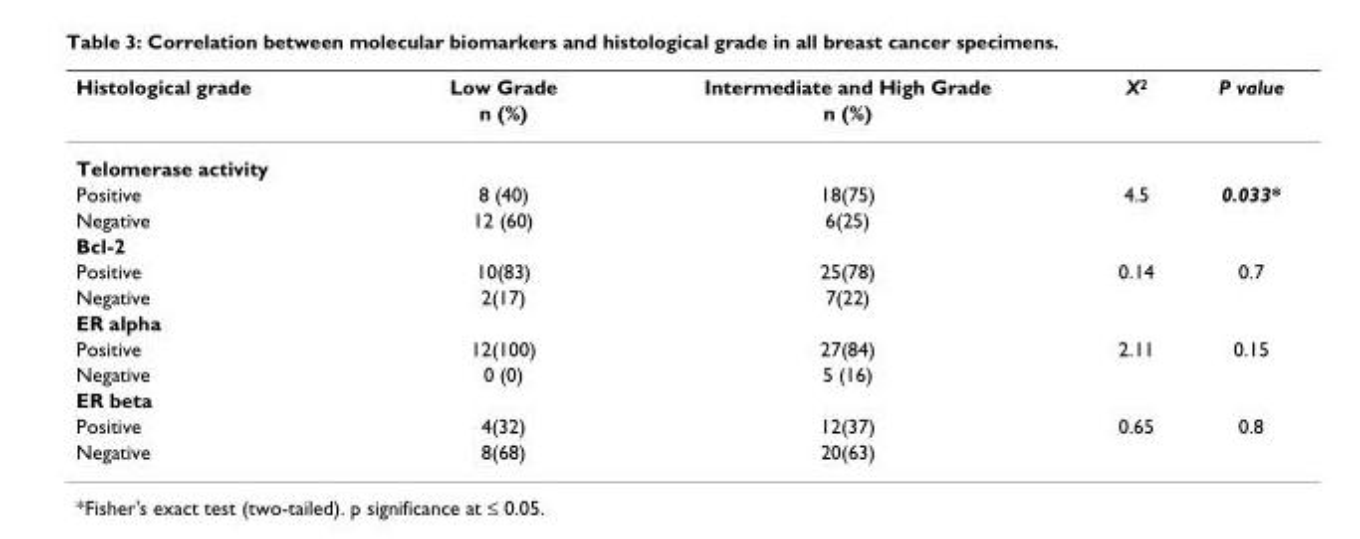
<table><thead><tr><td rowspan="2">Histological grade</td><td rowspan="2">Low Grade n (%)</td><td rowspan="2">Intermediate and High Grade n (%)</td><td rowspan="2">X2</td><td rowspan="2">P value</td></tr><tr></tr></thead><tbody><tr><td colspan="5">Telomerase activity</td></tr><tr><td>Positive</td><td>8 (40)</td><td>18(75)</td><td>4.5</td><td>0.033*</td></tr><tr><td>Negative</td><td>12 (60)</td><td>6(25)</td><td></td><td></td></tr><tr><td colspan="5">Bcl-2</td></tr><tr><td>Positive</td><td>10(83)</td><td>25(78)</td><td>0.14</td><td>0.7</td></tr><tr><td>Negative</td><td>2(17)</td><td>7(22)</td><td></td><td></td></tr><tr><td colspan="5">ER alpha</td></tr><tr><td>Positive</td><td>12(100)</td><td>27(84)</td><td>2.11</td><td>0.15</td></tr><tr><td>Negative</td><td>0 (0)</td><td>5 (16)</td><td></td><td></td></tr><tr><td colspan="5">ER beta</td></tr><tr><td>Positive</td><td>4(32)</td><td>12(37)</td><td>0.65</td><td>0.8</td></tr><tr><td>Negative</td><td>8(68)</td><td>20(63)</td><td></td><td></td></tr></tbody></table>